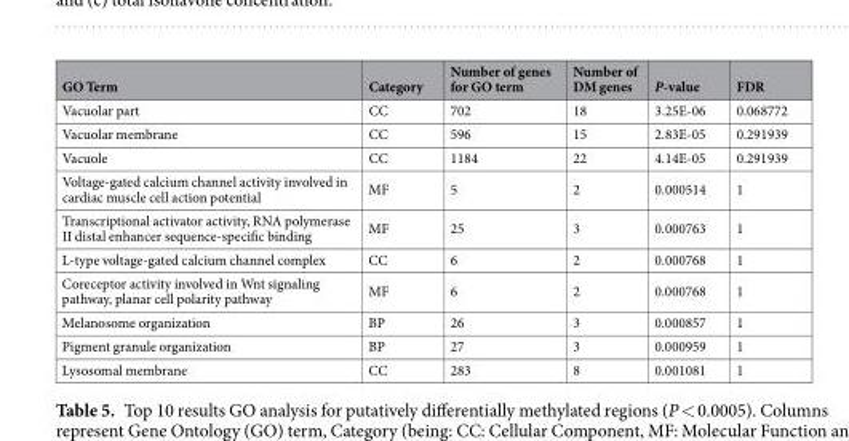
<table><thead><tr><td>GO Term</td><td>Category</td><td>Number of genes for GO term</td><td>Number of DM genes</td><td>P-value</td><td>FDR</td></tr></thead><tbody><tr><td>Vacuolar part</td><td>CC</td><td>702</td><td>18</td><td>3.25E-06</td><td>0.068772</td></tr><tr><td>Vacuolar membrane</td><td>CC</td><td>596</td><td>15</td><td>2.83E-05</td><td>0.291939</td></tr><tr><td>Vacuole</td><td>CC</td><td>1184</td><td>22</td><td>4.14E-05</td><td>0.291939</td></tr><tr><td>Voltage-gated calcium channel activity involved in cardiac muscle cell action potential</td><td>MF</td><td>5</td><td>2</td><td>0.000514</td><td>1</td></tr><tr><td>Transcriptional activator activity, RNA polymerase II distal enhancer sequence-specific binding</td><td>MF</td><td>25</td><td>3</td><td>0.000763</td><td>1</td></tr><tr><td>L-type voltage-gated calcium channel complex</td><td>CC</td><td>6</td><td>2</td><td>0.000768</td><td>1</td></tr><tr><td>Coreceptor activity involved in Wnt signaling pathway, planar cell polarity pathway</td><td>MF</td><td>6</td><td>2</td><td>0.000768</td><td>1</td></tr><tr><td>Melanosome organization</td><td>BP</td><td>26</td><td>3</td><td>0.000857</td><td>1</td></tr><tr><td>Pigment granule organization</td><td>BP</td><td>27</td><td>3</td><td>0.000959</td><td>1</td></tr><tr><td>Lysosomal membrane</td><td>CC</td><td>283</td><td>8</td><td>0.001081</td><td>1</td></tr></tbody></table>